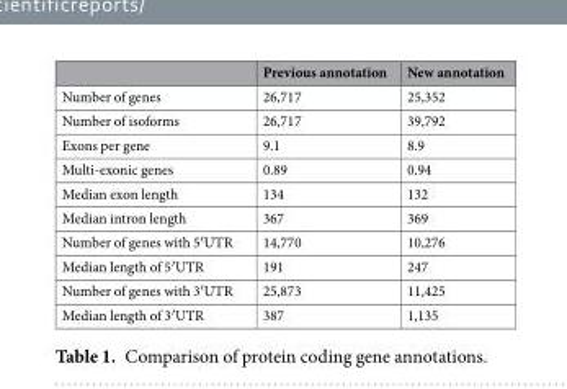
<table><thead><tr><td></td><td>Previous annotation</td><td>New annotation</td></tr></thead><tbody><tr><td>Number of genes</td><td>26,717</td><td>25,352</td></tr><tr><td>Number of isoforms</td><td>26,717</td><td>39,792</td></tr><tr><td>Exons per gene</td><td>9.1</td><td>8.9</td></tr><tr><td>Multi-exonic genes</td><td>0.89</td><td>0.94</td></tr><tr><td>Median exon length</td><td>134</td><td>132</td></tr><tr><td>Median intron length</td><td>367</td><td>369</td></tr><tr><td>Number of genes with 5′UTR</td><td>14,770</td><td>10,276</td></tr><tr><td>Median length of 5′UTR</td><td>191</td><td>247</td></tr><tr><td>Number of genes with 3′UTR</td><td>25,873</td><td>11,425</td></tr><tr><td>Median length of 3′UTR</td><td>387</td><td>1,135</td></tr></tbody></table>